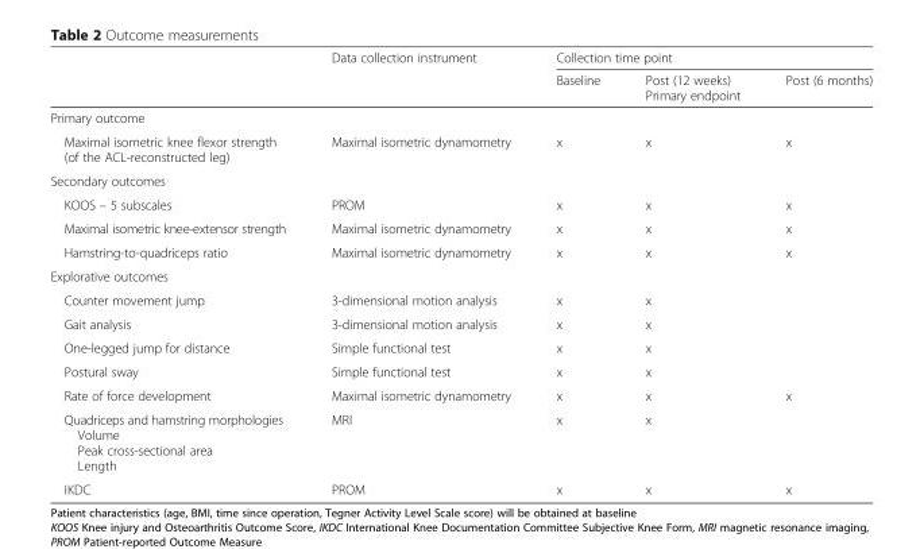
<table><thead><tr><td rowspan="2"></td><td rowspan="2">Data collection instrument</td><td colspan="3">Collection time point</td></tr><tr><td>Baseline</td><td>Post (12 weeks) Primary endpoint</td><td>Post (6 months)</td></tr></thead><tbody><tr><td colspan="5">Primary outcome</td></tr><tr><td>Maximal isometric knee flexor strength (of the ACL-reconstructed leg)</td><td>Maximal isometric dynamometry</td><td>x</td><td>x</td><td>x</td></tr><tr><td colspan="5">Secondary outcomes</td></tr><tr><td>KOOS – 5 subscales</td><td>PROM</td><td>x</td><td>x</td><td>x</td></tr><tr><td>Maximal isometric knee-extensor strength</td><td>Maximal isometric dynamometry</td><td>x</td><td>x</td><td>x</td></tr><tr><td>Hamstring-to-quadriceps ratio</td><td>Maximal isometric dynamometry</td><td>x</td><td>x</td><td>x</td></tr><tr><td colspan="5">Explorative outcomes</td></tr><tr><td>Counter movement jump</td><td>3-dimensional motion analysis</td><td>x</td><td>x</td><td></td></tr><tr><td>Gait analysis</td><td>3-dimensional motion analysis</td><td>x</td><td>x</td><td></td></tr><tr><td>One-legged jump for distance</td><td>Simple functional test</td><td>x</td><td>x</td><td></td></tr><tr><td>Postural sway</td><td>Simple functional test</td><td>x</td><td>x</td><td></td></tr><tr><td>Rate of force development</td><td>Maximal isometric dynamometry</td><td>x</td><td>x</td><td>x</td></tr><tr><td>Quadriceps and hamstring morphologies Volume Peak cross-sectional area Length</td><td>MRI</td><td>x</td><td>x</td><td></td></tr><tr><td>IKDC</td><td>PROM</td><td>x</td><td>x</td><td>x</td></tr></tbody></table>